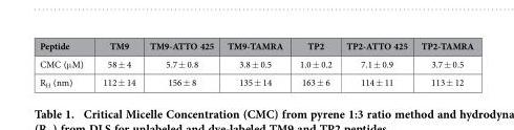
<table><thead><tr><td>Peptide</td><td>TM9</td><td>TM9-ATTO 425</td><td>TM9-TAMRA</td><td>TP2</td><td>TP2-ATTO 425</td><td>TP2-TAMRA</td></tr></thead><tbody><tr><td>CMC (μ M)</td><td>58 ± 4</td><td>5.7 ± 0.8</td><td>3.8 ± 0.5</td><td>1.0 ± 0.2</td><td>7.1 ± 0.9</td><td>3.7 ± 0.5</td></tr><tr><td>R<sub>H</sub> (nm)</td><td>112 ± 14</td><td>156 ± 8</td><td>135 ± 14</td><td>163 ± 6</td><td>114 ± 11</td><td>113 ± 12</td></tr></tbody></table>